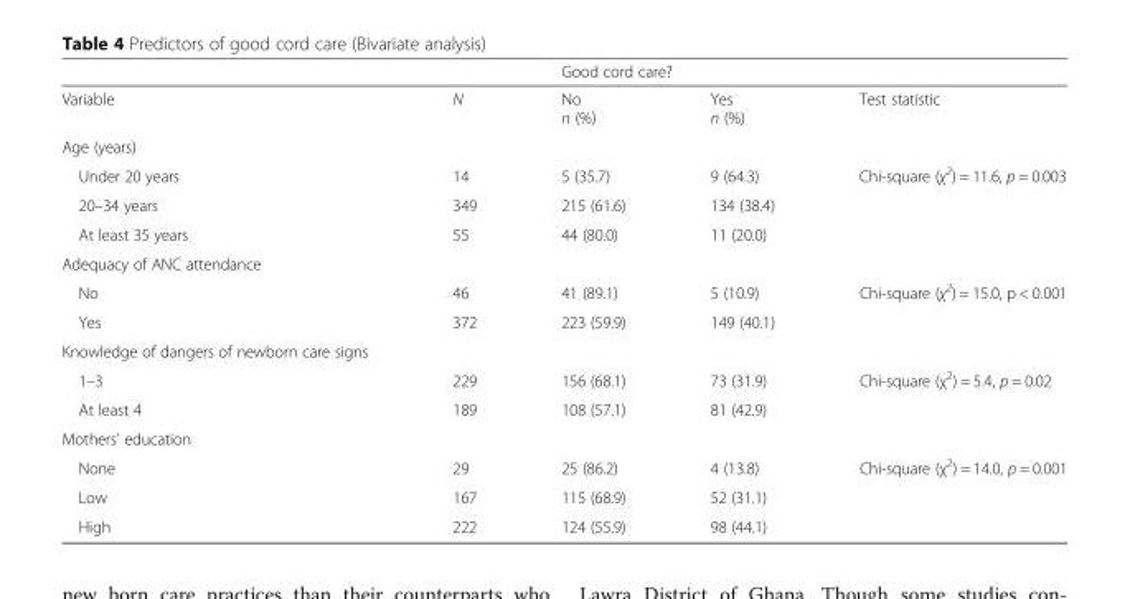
<table><thead><tr><td rowspan="2">Variable</td><td rowspan="2">N</td><td colspan="2">Good cord care?</td><td rowspan="2">Test statistic</td></tr><tr><td>No n (%)</td><td>Yes n (%)</td></tr></thead><tbody><tr><td colspan="5">Age (years)</td></tr><tr><td>Under 20 years</td><td>14</td><td>5 (35.7)</td><td>9 (64.3)</td><td rowspan="3">Chi-square (χ<sup>2</sup>) = 11.6, p = 0.003</td></tr><tr><td>20–34 years</td><td>349</td><td>215 (61.6)</td><td>134 (38.4)</td></tr><tr><td>At least 35 years</td><td>55</td><td>44 (80.0)</td><td>11 (20.0)</td></tr><tr><td colspan="5">Adequacy of ANC attendance</td></tr><tr><td>No</td><td>46</td><td>41 (89.1)</td><td>5 (10.9)</td><td rowspan="2">Chi-square (χ<sup>2</sup>) = 15.0, p &lt; 0.001</td></tr><tr><td>Yes</td><td>372</td><td>223 (59.9)</td><td>149 (40.1)</td></tr><tr><td colspan="5">Knowledge of dangers of newborn care signs</td></tr><tr><td>1–3</td><td>229</td><td>156 (68.1)</td><td>73 (31.9)</td><td rowspan="2">Chi-square (χ<sup>2</sup>) = 5.4, p = 0.02</td></tr><tr><td>At least 4</td><td>189</td><td>108 (57.1)</td><td>81 (42.9)</td></tr><tr><td colspan="5">Mothers’ education</td></tr><tr><td>None</td><td>29</td><td>25 (86.2)</td><td>4 (13.8)</td><td rowspan="3">Chi-square (χ<sup>2</sup>) = 14.0, p = 0.001</td></tr><tr><td>Low</td><td>167</td><td>115 (68.9)</td><td>52 (31.1)</td></tr><tr><td>High</td><td>222</td><td>124 (55.9)</td><td>98 (44.1)</td></tr></tbody></table>